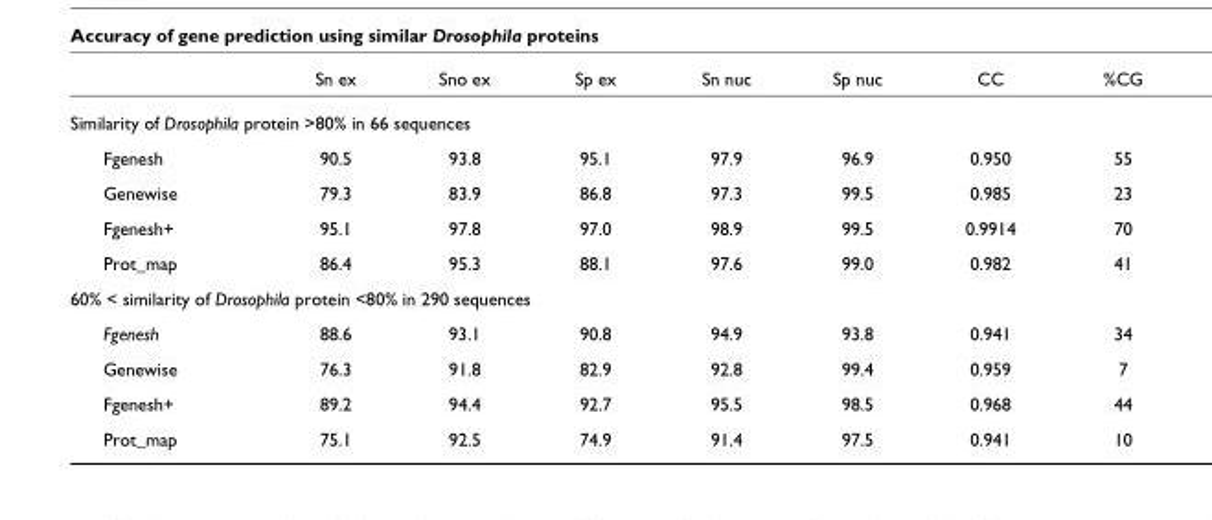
<table><thead><tr><td></td><td>Sn ex</td><td>Sno ex</td><td>Sp ex</td><td>Sn nuc</td><td>Sp nuc</td><td>CC</td><td>%CG</td></tr></thead><tbody><tr><td colspan="8">Similarity of Drosophila protein &gt;80% in 66 sequences</td></tr><tr><td>Fgenesh</td><td>90.5</td><td>93.8</td><td>95.1</td><td>97.9</td><td>96.9</td><td>0.950</td><td>55</td></tr><tr><td>Genewise</td><td>79.3</td><td>83.9</td><td>86.8</td><td>97.3</td><td>99.5</td><td>0.985</td><td>23</td></tr><tr><td>Fgenesh+</td><td>95.1</td><td>97.8</td><td>97.0</td><td>98.9</td><td>99.5</td><td>0.9914</td><td>70</td></tr><tr><td>Prot_map</td><td>86.4</td><td>95.3</td><td>88.1</td><td>97.6</td><td>99.0</td><td>0.982</td><td>41</td></tr><tr><td colspan="8">60% &lt; similarity of Drosophila protein &lt;80% in 290 sequences</td></tr><tr><td>Fgenesh</td><td>88.6</td><td>93.1</td><td>90.8</td><td>94.9</td><td>93.8</td><td>0.941</td><td>34</td></tr><tr><td>Genewise</td><td>76.3</td><td>91.8</td><td>82.9</td><td>92.8</td><td>99.4</td><td>0.959</td><td>7</td></tr><tr><td>Fgenesh+</td><td>89.2</td><td>94.4</td><td>92.7</td><td>95.5</td><td>98.5</td><td>0.968</td><td>44</td></tr><tr><td>Prot_map</td><td>75.1</td><td>92.5</td><td>74.9</td><td>91.4</td><td>97.5</td><td>0.941</td><td>10</td></tr></tbody></table>